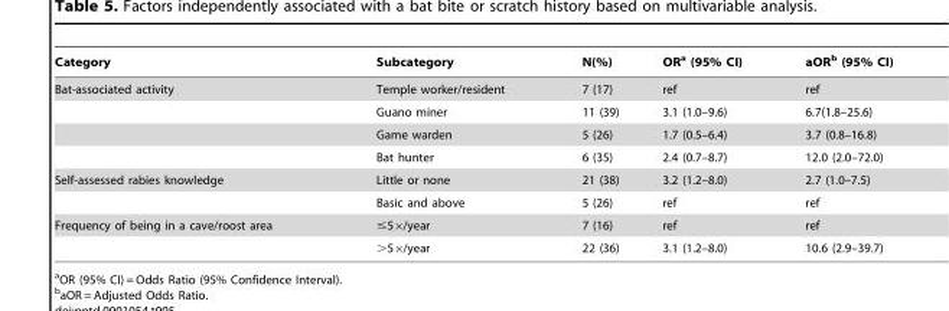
<table><thead><tr><td>Category</td><td>Subcategory</td><td>N(%)</td><td>OR<sup>a</sup> (95% CI)</td><td>aOR<sup>b</sup> (95% CI)</td></tr></thead><tbody><tr><td rowspan="4">Bat-associated activity</td><td>Temple worker/resident</td><td>7 (17)</td><td>ref</td><td>ref</td></tr><tr><td>Guano miner</td><td>11 (39)</td><td>3.1 (1.0–9.6)</td><td>6.7(1.8–25.6)</td></tr><tr><td>Game warden</td><td>5 (26)</td><td>1.7 (0.5–6.4)</td><td>3.7 (0.8–16.8)</td></tr><tr><td>Bat hunter</td><td>6 (35)</td><td>2.4 (0.7–8.7)</td><td>12.0 (2.0–72.0)</td></tr><tr><td rowspan="2">Self-assessed rabies knowledge</td><td>Little or none</td><td>21 (38)</td><td>3.2 (1.2–8.0)</td><td>2.7 (1.0–7.5)</td></tr><tr><td>Basic and above</td><td>5 (26)</td><td>ref</td><td>ref</td></tr><tr><td rowspan="2">Frequency of being in a cave/roost area</td><td>≤5×/year</td><td>7 (16)</td><td>ref</td><td>ref</td></tr><tr><td>&gt;5×/year</td><td>22 (36)</td><td>3.1 (1.2–8.0)</td><td>10.6 (2.9–39.7)</td></tr></tbody></table>